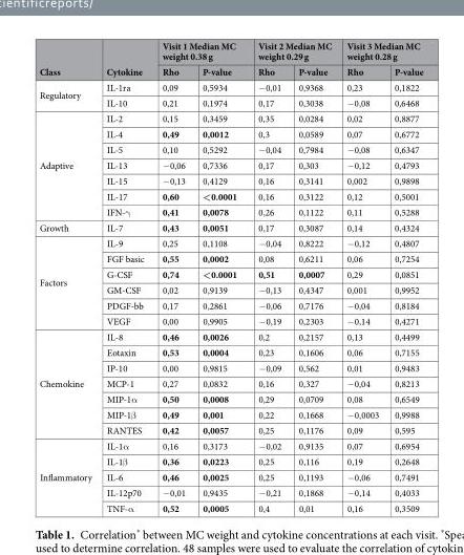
<table><thead><tr><td rowspan="2">Class</td><td rowspan="2">Cytokine</td><td colspan="2">Visit 1 Median MC weight 0.38 g</td><td colspan="2">Visit 2 Median MC weight 0.29 g</td><td colspan="2">Visit 3 Median MC weight 0.28 g</td></tr><tr><td>Rho</td><td>P-value</td><td>Rho</td><td>P-value</td><td>Rho</td><td>P-value</td></tr></thead><tbody><tr><td rowspan="2">Regulatory</td><td>IL-1ra</td><td>0,09</td><td>0,5934</td><td>−0,01</td><td>0,9368</td><td>0,23</td><td>0,1822</td></tr><tr><td>IL-10</td><td>0,21</td><td>0,1974</td><td>0,17</td><td>0,3038</td><td>−0,08</td><td>0,6468</td></tr><tr><td rowspan="7">Adaptive</td><td>IL-2</td><td>0,15</td><td>0,3459</td><td>0,35</td><td>0,0284</td><td>0,02</td><td>0,8877</td></tr><tr><td>IL-4</td><td>0,49</td><td>0,0012</td><td>0,3</td><td>0,0589</td><td>0,07</td><td>0,6772</td></tr><tr><td>IL-5</td><td>0,10</td><td>0,5292</td><td>−0,04</td><td>0,7984</td><td>−0,08</td><td>0,6347</td></tr><tr><td>IL-13</td><td>−0,06</td><td>0,7336</td><td>0,17</td><td>0,303</td><td>−0,12</td><td>0,4793</td></tr><tr><td>IL-15</td><td>−0,13</td><td>0,4129</td><td>0,16</td><td>0,3141</td><td>0,002</td><td>0,9898</td></tr><tr><td>IL-17</td><td>0,60</td><td>&lt;0.0001</td><td>0,16</td><td>0,3122</td><td>0,12</td><td>0,5001</td></tr><tr><td>IFN-γ</td><td>0,41</td><td>0,0078</td><td>0,26</td><td>0,1122</td><td>0,11</td><td>0,5288</td></tr><tr><td>Growth</td><td>IL-7</td><td>0,43</td><td>0,0051</td><td>0,17</td><td>0,3087</td><td>0,14</td><td>0,4324</td></tr><tr><td rowspan="6">Factors</td><td>IL-9</td><td>0,25</td><td>0,1108</td><td>−0,04</td><td>0,8222</td><td>−0,12</td><td>0,4807</td></tr><tr><td>FGF basic</td><td>0,55</td><td>0,0002</td><td>0,08</td><td>0,6211</td><td>0,06</td><td>0,7254</td></tr><tr><td>G-CSF</td><td>0,74</td><td>&lt;0.0001</td><td>0,51</td><td>0,0007</td><td>0,29</td><td>0,0851</td></tr><tr><td>GM-CSF</td><td>0,02</td><td>0,9139</td><td>−0,13</td><td>0,4347</td><td>0,001</td><td>0,9952</td></tr><tr><td>PDGF-bb</td><td>0,17</td><td>0,2861</td><td>−0,06</td><td>0,7176</td><td>−0,04</td><td>0,8184</td></tr><tr><td>VEGF</td><td>0,00</td><td>0,9905</td><td>−0,19</td><td>0,2303</td><td>−0,14</td><td>0,4271</td></tr><tr><td rowspan="7">Chemokine</td><td>IL-8</td><td>0,46</td><td>0,0026</td><td>0,2</td><td>0,2157</td><td>0,13</td><td>0,4499</td></tr><tr><td>Eotaxin</td><td>0,53</td><td>0,0004</td><td>0,23</td><td>0,1606</td><td>0,06</td><td>0,7155</td></tr><tr><td>IP-10</td><td>0,00</td><td>0,9815</td><td>−0,09</td><td>0,562</td><td>0,01</td><td>0,9483</td></tr><tr><td>MCP-1</td><td>0,27</td><td>0,0832</td><td>0,16</td><td>0,327</td><td>−0,04</td><td>0,8213</td></tr><tr><td>MIP-1α</td><td>0,50</td><td>0,0008</td><td>0,29</td><td>0,0709</td><td>0,08</td><td>0,6549</td></tr><tr><td>MIP-1β</td><td>0,49</td><td>0,001</td><td>0,22</td><td>0,1668</td><td>−0,0003</td><td>0,9988</td></tr><tr><td>RANTES</td><td>0,42</td><td>0,0057</td><td>0,25</td><td>0,1176</td><td>0,09</td><td>0,595</td></tr><tr><td rowspan="5">Inflammatory</td><td>IL-1α</td><td>0,16</td><td>0,3173</td><td>−0,02</td><td>0,9135</td><td>0,07</td><td>0,6954</td></tr><tr><td>IL-1β</td><td>0,36</td><td>0,0223</td><td>0,25</td><td>0,116</td><td>0,19</td><td>0,2648</td></tr><tr><td>IL-6</td><td>0,46</td><td>0,0025</td><td>0,25</td><td>0,1193</td><td>−0,06</td><td>0,7491</td></tr><tr><td>IL-12p70</td><td>−0,01</td><td>0,9435</td><td>−0,21</td><td>0,1868</td><td>−0,14</td><td>0,4033</td></tr><tr><td>TNF-α</td><td>0,52</td><td>0,0005</td><td>0,4</td><td>0,01</td><td>0,16</td><td>0,3509</td></tr></tbody></table>